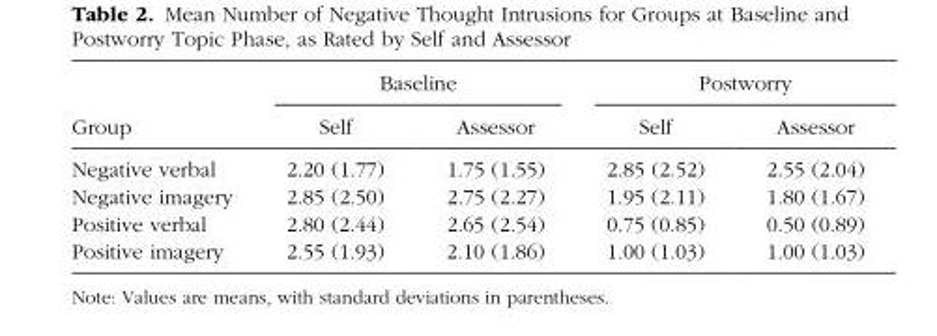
<table><thead><tr><td rowspan="2">Group</td><td colspan="2">Baseline</td><td colspan="2">Postworry</td></tr><tr><td>Self</td><td>Assessor</td><td>Self</td><td>Assessor</td></tr></thead><tbody><tr><td>Negative verbal</td><td>2.20 (1.77)</td><td>1.75 (1.55)</td><td>2.85 (2.52)</td><td>2.55 (2.04)</td></tr><tr><td>Negative imagery</td><td>2.85 (2.50)</td><td>2.75 (2.27)</td><td>1.95 (2.11)</td><td>1.80 (1.67)</td></tr><tr><td>Positive verbal</td><td>2.80 (2.44)</td><td>2.65 (2.54)</td><td>0.75 (0.85)</td><td>0.50 (0.89)</td></tr><tr><td>Positive imagery</td><td>2.55 (1.93)</td><td>2.10 (1.86)</td><td>1.00 (1.03)</td><td>1.00 (1.03)</td></tr></tbody></table>